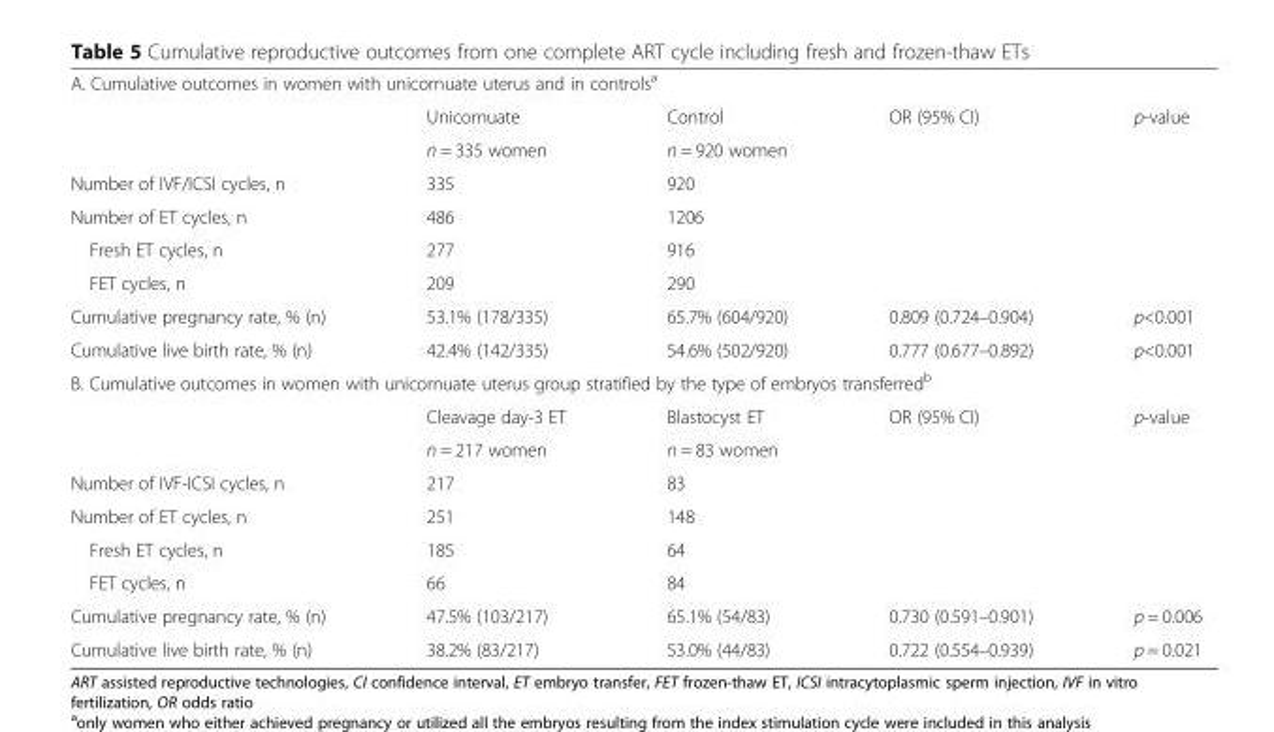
<table><tbody><tr><td colspan="5">A. Cumulative outcomes in women with unicornuate uterus and in controls<sup>a</sup></td></tr><tr><td rowspan="2"></td><td>Unicornuate</td><td>Control</td><td>OR (95% CI)</td><td rowspan="2">p-value</td></tr><tr><td>n = 335 women</td><td>n = 920 women</td><td></td></tr><tr><td>Number of IVF/ICSI cycles, n</td><td>335</td><td>920</td><td></td><td></td></tr><tr><td>Number of ET cycles, n</td><td>486</td><td>1206</td><td></td><td></td></tr><tr><td>Fresh ET cycles, n</td><td>277</td><td>916</td><td></td><td></td></tr><tr><td>FET cycles, n</td><td>209</td><td>290</td><td></td><td></td></tr><tr><td>Cumulative pregnancy rate, % (n)</td><td>53.1% (178/335)</td><td>65.7% (604/920)</td><td>0.809 (0.724–0.904)</td><td>p&lt;0.001</td></tr><tr><td>Cumulative live birth rate, % (n)</td><td>42.4% (142/335)</td><td>54.6% (502/920)</td><td>0.777 (0.677–0.892)</td><td>p&lt;0.001</td></tr><tr><td colspan="5">B. Cumulative outcomes in women with unicornuate uterus group stratified by the type of embryos transferred<sup>b</sup></td></tr><tr><td rowspan="2"></td><td>Cleavage day-3 ET</td><td>Blastocyst ET</td><td>OR (95% CI)</td><td rowspan="2">p-value</td></tr><tr><td>n = 217 women</td><td>n = 83 women</td><td></td></tr><tr><td>Number of IVF-ICSI cycles, n</td><td>217</td><td>83</td><td></td><td></td></tr><tr><td>Number of ET cycles, n</td><td>251</td><td>148</td><td></td><td></td></tr><tr><td>Fresh ET cycles, n</td><td>185</td><td>64</td><td></td><td></td></tr><tr><td>FET cycles, n</td><td>66</td><td>84</td><td></td><td></td></tr><tr><td>Cumulative pregnancy rate, % (n)</td><td>47.5% (103/217)</td><td>65.1% (54/83)</td><td>0.730 (0.591–0.901)</td><td>p = 0.006</td></tr><tr><td>Cumulative live birth rate, % (n)</td><td>38.2% (83/217)</td><td>53.0% (44/83)</td><td>0.722 (0.554–0.939)</td><td>p = 0.021</td></tr></tbody></table>